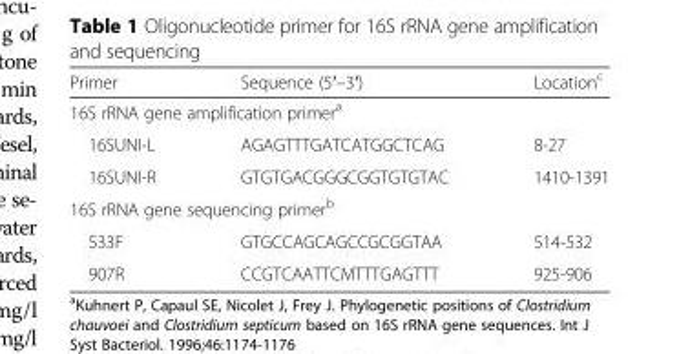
<table><thead><tr><td>Primer</td><td>Sequence (5′–3′)</td><td>Location<sup>c</sup></td></tr></thead><tbody><tr><td colspan="3">16S rRNA gene amplification primer<sup>a</sup></td></tr><tr><td>16SUNI-L</td><td>AGAGTTTGATCATGGCTCAG</td><td>8-27</td></tr><tr><td>16SUNI-R</td><td>GTGTGACGGGCGGTGTGTAC</td><td>1410-1391</td></tr><tr><td colspan="3">16S rRNA gene sequencing primer<sup>b</sup></td></tr><tr><td>533F</td><td>GTGCCAGCAGCCGCGGTAA</td><td>514-532</td></tr><tr><td>907R</td><td>CCGTCAATTCMTTTGAGTTT</td><td>925-906</td></tr></tbody></table>